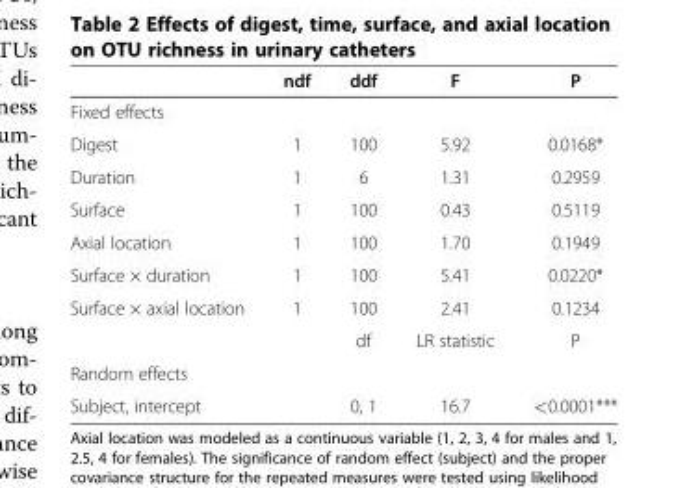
<table><thead><tr><td></td><td>ndf</td><td>ddf</td><td>F</td><td>P</td></tr></thead><tbody><tr><td colspan="5">Fixed effects</td></tr><tr><td>Digest</td><td>1</td><td>100</td><td>5.92</td><td>0.0168*</td></tr><tr><td>Duration</td><td>1</td><td>6</td><td>1.31</td><td>0.2959</td></tr><tr><td>Surface</td><td>1</td><td>100</td><td>0.43</td><td>0.5119</td></tr><tr><td>Axial location</td><td>1</td><td>100</td><td>1.70</td><td>0.1949</td></tr><tr><td>Surface × duration</td><td>1</td><td>100</td><td>5.41</td><td>0.0220*</td></tr><tr><td rowspan="2">Surface × axial location</td><td>1</td><td>100</td><td>2.41</td><td>0.1234</td></tr><tr><td></td><td>df</td><td>LR statistic</td><td>P</td></tr><tr><td colspan="5">Random effects</td></tr><tr><td>Subject, intercept</td><td></td><td>0, 1</td><td>16.7</td><td>&lt;0.0001***</td></tr></tbody></table>